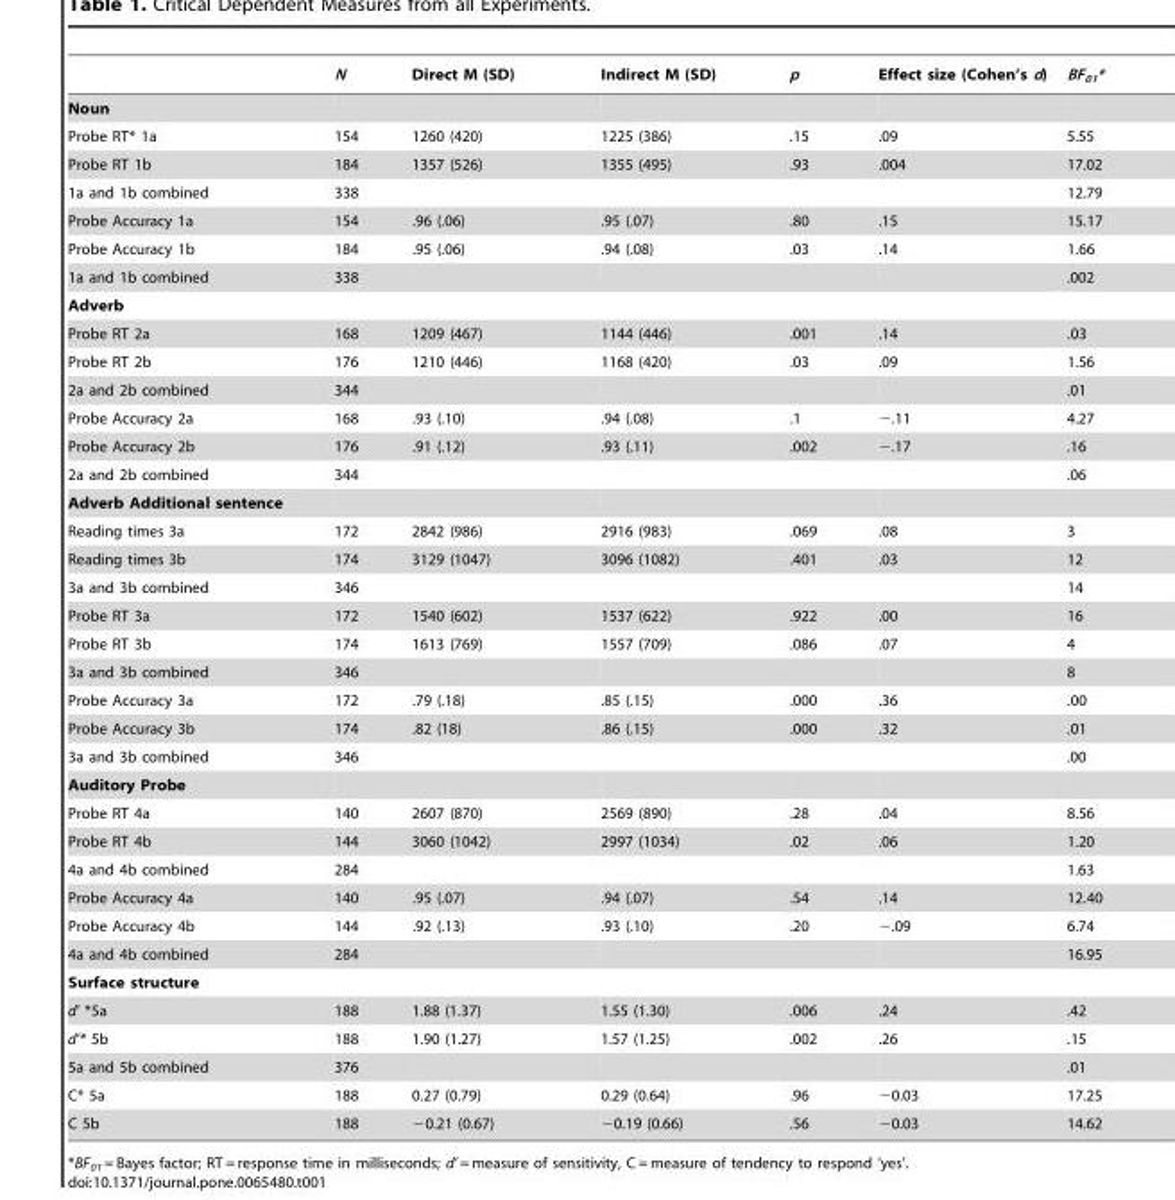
<table><thead><tr><td></td><td>N</td><td>Direct M (SD)</td><td>Indirect M (SD)</td><td>p</td><td>Effect size (Cohen’s d)</td><td>BF<sub>01</sub>*</td></tr></thead><tbody><tr><td colspan="7">Noun</td></tr><tr><td>Probe RT* 1a</td><td>154</td><td>1260 (420)</td><td>1225 (386)</td><td>.15</td><td>.09</td><td>5.55</td></tr><tr><td>Probe RT 1b</td><td>184</td><td>1357 (526)</td><td>1355 (495)</td><td>.93</td><td>.004</td><td>17.02</td></tr><tr><td>1a and 1b combined</td><td>338</td><td></td><td></td><td></td><td></td><td>12.79</td></tr><tr><td>Probe Accuracy 1a</td><td>154</td><td>.96 (.06)</td><td>.95 (.07)</td><td>.80</td><td>.15</td><td>15.17</td></tr><tr><td>Probe Accuracy 1b</td><td>184</td><td>.95 (.06)</td><td>.94 (.08)</td><td>.03</td><td>.14</td><td>1.66</td></tr><tr><td>1a and 1b combined</td><td>338</td><td></td><td></td><td></td><td></td><td>.002</td></tr><tr><td colspan="7">Adverb</td></tr><tr><td>Probe RT 2a</td><td>168</td><td>1209 (467)</td><td>1144 (446)</td><td>.001</td><td>.14</td><td>.03</td></tr><tr><td>Probe RT 2b</td><td>176</td><td>1210 (446)</td><td>1168 (420)</td><td>.03</td><td>.09</td><td>1.56</td></tr><tr><td>2a and 2b combined</td><td>344</td><td></td><td></td><td></td><td></td><td>.01</td></tr><tr><td>Probe Accuracy 2a</td><td>168</td><td>.93 (.10)</td><td>.94 (.08)</td><td>.1</td><td>−.11</td><td>4.27</td></tr><tr><td>Probe Accuracy 2b</td><td>176</td><td>.91 (.12)</td><td>.93 (.11)</td><td>.002</td><td>−.17</td><td>.16</td></tr><tr><td>2a and 2b combined</td><td>344</td><td></td><td></td><td></td><td></td><td>.06</td></tr><tr><td colspan="7">Adverb Additional sentence</td></tr><tr><td>Reading times 3a</td><td>172</td><td>2842 (986)</td><td>2916 (983)</td><td>.069</td><td>.08</td><td>3</td></tr><tr><td>Reading times 3b</td><td>174</td><td>3129 (1047)</td><td>3096 (1082)</td><td>.401</td><td>.03</td><td>12</td></tr><tr><td>3a and 3b combined</td><td>346</td><td></td><td></td><td></td><td></td><td>14</td></tr><tr><td>Probe RT 3a</td><td>172</td><td>1540 (602)</td><td>1537 (622)</td><td>.922</td><td>.00</td><td>16</td></tr><tr><td>Probe RT 3b</td><td>174</td><td>1613 (769)</td><td>1557 (709)</td><td>.086</td><td>.07</td><td>4</td></tr><tr><td>3a and 3b combined</td><td>346</td><td></td><td></td><td></td><td></td><td>8</td></tr><tr><td>Probe Accuracy 3a</td><td>172</td><td>.79 (.18)</td><td>.85 (.15)</td><td>.000</td><td>.36</td><td>.00</td></tr><tr><td>Probe Accuracy 3b</td><td>174</td><td>.82 (18)</td><td>.86 (.15)</td><td>.000</td><td>.32</td><td>.01</td></tr><tr><td>3a and 3b combined</td><td>346</td><td></td><td></td><td></td><td></td><td>.00</td></tr><tr><td colspan="7">Auditory Probe</td></tr><tr><td>Probe RT 4a</td><td>140</td><td>2607 (870)</td><td>2569 (890)</td><td>.28</td><td>.04</td><td>8.56</td></tr><tr><td>Probe RT 4b</td><td>144</td><td>3060 (1042)</td><td>2997 (1034)</td><td>.02</td><td>.06</td><td>1.20</td></tr><tr><td>4a and 4b combined</td><td>284</td><td></td><td></td><td></td><td></td><td>1.63</td></tr><tr><td>Probe Accuracy 4a</td><td>140</td><td>.95 (.07)</td><td>.94 (.07)</td><td>.54</td><td>.14</td><td>12.40</td></tr><tr><td>Probe Accuracy 4b</td><td>144</td><td>.92 (.13)</td><td>.93 (.10)</td><td>.20</td><td>−.09</td><td>6.74</td></tr><tr><td>4a and 4b combined</td><td>284</td><td></td><td></td><td></td><td></td><td>16.95</td></tr><tr><td colspan="7">Surface structure</td></tr><tr><td>d’ *5a</td><td>188</td><td>1.88 (1.37)</td><td>1.55 (1.30)</td><td>.006</td><td>.24</td><td>.42</td></tr><tr><td>d’* 5b</td><td>188</td><td>1.90 (1.27)</td><td>1.57 (1.25)</td><td>.002</td><td>.26</td><td>.15</td></tr><tr><td>5a and 5b combined</td><td>376</td><td></td><td></td><td></td><td></td><td>.01</td></tr><tr><td>C* 5a</td><td>188</td><td>0.27 (0.79)</td><td>0.29 (0.64)</td><td>.96</td><td>−0.03</td><td>17.25</td></tr><tr><td>C 5b</td><td>188</td><td>−0.21 (0.67)</td><td>−0.19 (0.66)</td><td>.56</td><td>−0.03</td><td>14.62</td></tr></tbody></table>